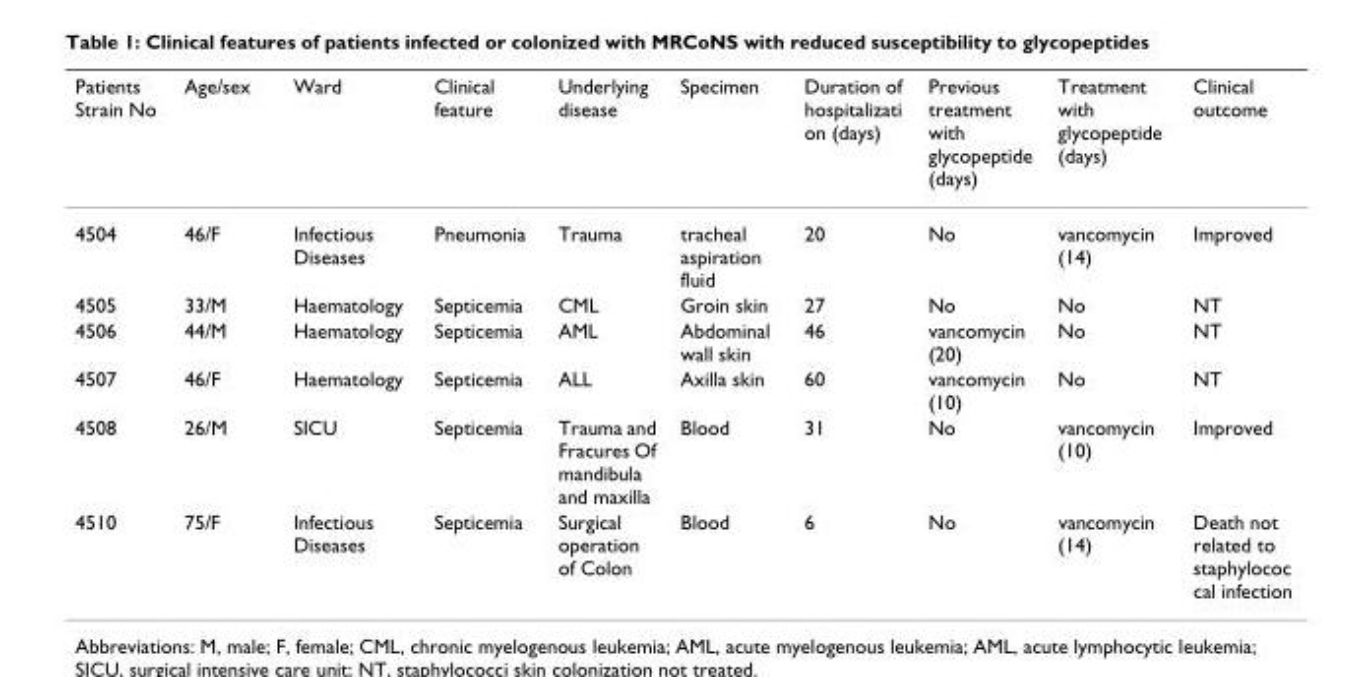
<table><thead><tr><td>Patients Strain No</td><td>Age/sex</td><td>Ward</td><td>Clinical feature</td><td>Underlying disease</td><td>Specimen</td><td>Duration of hospitalizati on (days)</td><td>Previous treatment with glycopeptide (days)</td><td>Treatment with glycopeptide (days)</td><td>Clinical outcome</td></tr></thead><tbody><tr><td>4504</td><td>46/F</td><td>Infectious Diseases</td><td>Pneumonia</td><td>Trauma</td><td>tracheal aspiration fluid</td><td>20</td><td>No</td><td>vancomycin (14)</td><td>Improved</td></tr><tr><td>4505</td><td>33/M</td><td>Haematology</td><td>Septicemia</td><td>CML</td><td>Groin skin</td><td>27</td><td>No</td><td>No</td><td>NT</td></tr><tr><td>4506</td><td>44/M</td><td>Haematology</td><td>Septicemia</td><td>AML</td><td>Abdominal wall skin</td><td>46</td><td>vancomycin (20)</td><td>No</td><td>NT</td></tr><tr><td>4507</td><td>46/F</td><td>Haematology</td><td>Septicemia</td><td>ALL</td><td>Axilla skin</td><td>60</td><td>vancomycin (10)</td><td>No</td><td>NT</td></tr><tr><td>4508</td><td>26/M</td><td>SICU</td><td>Septicemia</td><td>Trauma and Fracures Of mandibula and maxilla</td><td>Blood</td><td>31</td><td>No</td><td>vancomycin (10)</td><td>Improved</td></tr><tr><td>4510</td><td>75/F</td><td>Infectious Diseases</td><td>Septicemia</td><td>Surgical operation of Colon</td><td>Blood</td><td>6</td><td>No</td><td>vancomycin (14)</td><td>Death not related to staphylococ cal infection</td></tr></tbody></table>